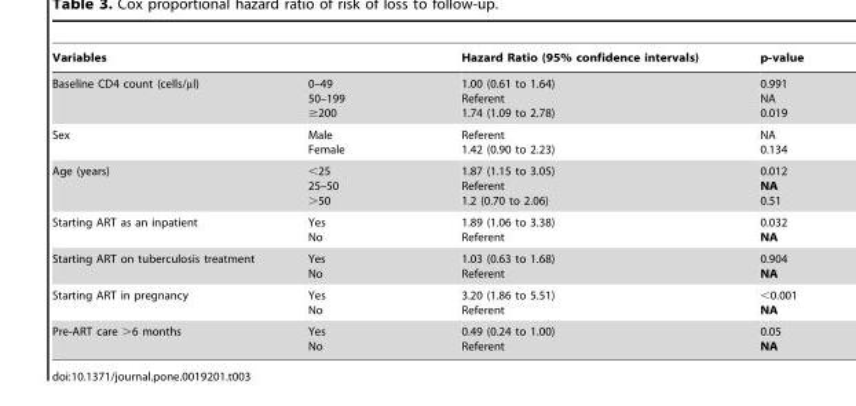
<table><thead><tr><td colspan="2">Variables</td><td rowspan="2">Hazard Ratio (95% confidence intervals) 1.00 (0.61 to 1.64) Referent 1.74 (1.09 to 2.78)</td><td rowspan="2">p-value 0.991 NA 0.019</td></tr><tr><td>Baseline CD4 count (cells/µl)</td><td>0–49 50–199 ≥200</td></tr></thead><tbody><tr><td>Sex</td><td>Male Female</td><td>Referent 1.42 (0.90 to 2.23)</td><td>NA 0.134</td></tr><tr><td>Age (years)</td><td>&lt;25 25–50 &gt;50</td><td>1.87 (1.15 to 3.05) Referent 1.2 (0.70 to 2.06)</td><td>0.012 NA 0.51</td></tr><tr><td>Starting ART as an inpatient</td><td>Yes No</td><td>1.89 (1.06 to 3.38) Referent</td><td>0.032 NA</td></tr><tr><td>Starting ART on tuberculosis treatment</td><td>Yes No</td><td>1.03 (0.63 to 1.68) Referent</td><td>0.904 NA</td></tr><tr><td>Starting ART in pregnancy</td><td>Yes No</td><td>3.20 (1.86 to 5.51) Referent</td><td>&lt;0.001 NA</td></tr><tr><td>Pre-ART care &gt;6 months</td><td>Yes No</td><td>0.49 (0.24 to 1.00) Referent</td><td>0.05 NA</td></tr></tbody></table>